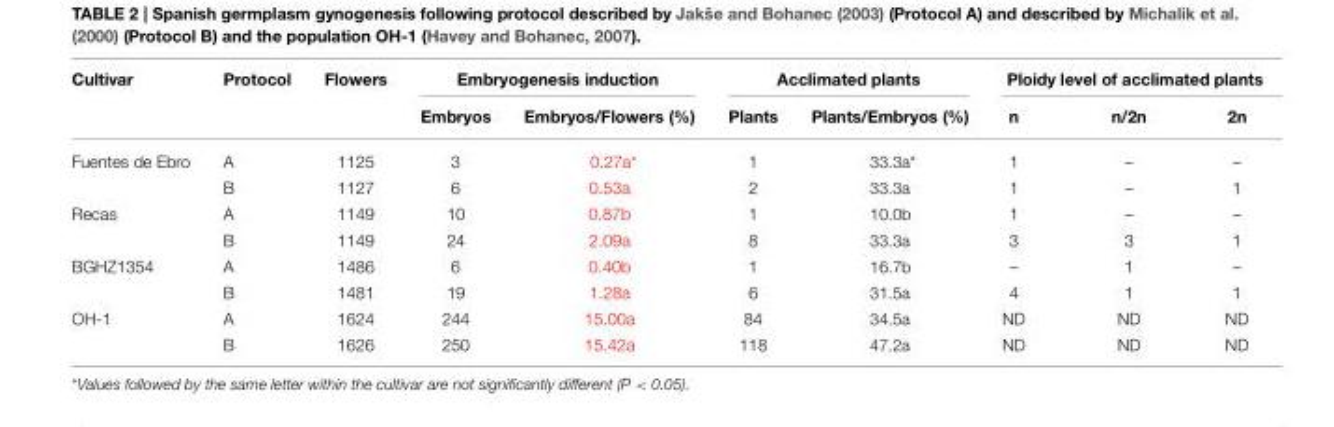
<table><thead><tr><td rowspan="2">Cultivar</td><td rowspan="2">Protocol</td><td rowspan="2">Flowers</td><td colspan="2">Embryogenesis induction</td><td colspan="2">Acclimated plants</td><td colspan="3">Ploidy level of acclimated plants</td></tr><tr><td>Embryos</td><td>Embryos/Flowers (%)</td><td>Plants</td><td>Plants/Embryos (%)</td><td>n</td><td>n/2n</td><td>2n</td></tr></thead><tbody><tr><td rowspan="2">Fuentes de Ebro</td><td>A</td><td>1125</td><td>3</td><td>0.27a*</td><td>1</td><td>33.3a*</td><td>1</td><td>–</td><td>–</td></tr><tr><td>B</td><td>1127</td><td>6</td><td>0.53a</td><td>2</td><td>33.3a</td><td>1</td><td>–</td><td>1</td></tr><tr><td rowspan="2">Recas</td><td>A</td><td>1149</td><td>10</td><td>0.87b</td><td>1</td><td>10.0b</td><td>1</td><td>–</td><td>–</td></tr><tr><td>B</td><td>1149</td><td>24</td><td>2.09a</td><td>8</td><td>33.3a</td><td>3</td><td>3</td><td>1</td></tr><tr><td rowspan="2">BGHZ1354</td><td>A</td><td>1486</td><td>6</td><td>0.40b</td><td>1</td><td>16.7b</td><td>–</td><td>1</td><td>–</td></tr><tr><td>B</td><td>1481</td><td>19</td><td>1.28a</td><td>6</td><td>31.5a</td><td>4</td><td>1</td><td>1</td></tr><tr><td rowspan="2">OH-1</td><td>A</td><td>1624</td><td>244</td><td>15.00a</td><td>84</td><td>34.5a</td><td>ND</td><td>ND</td><td>ND</td></tr><tr><td>B</td><td>1626</td><td>250</td><td>15.42a</td><td>118</td><td>47.2a</td><td>ND</td><td>ND</td><td>ND</td></tr></tbody></table>